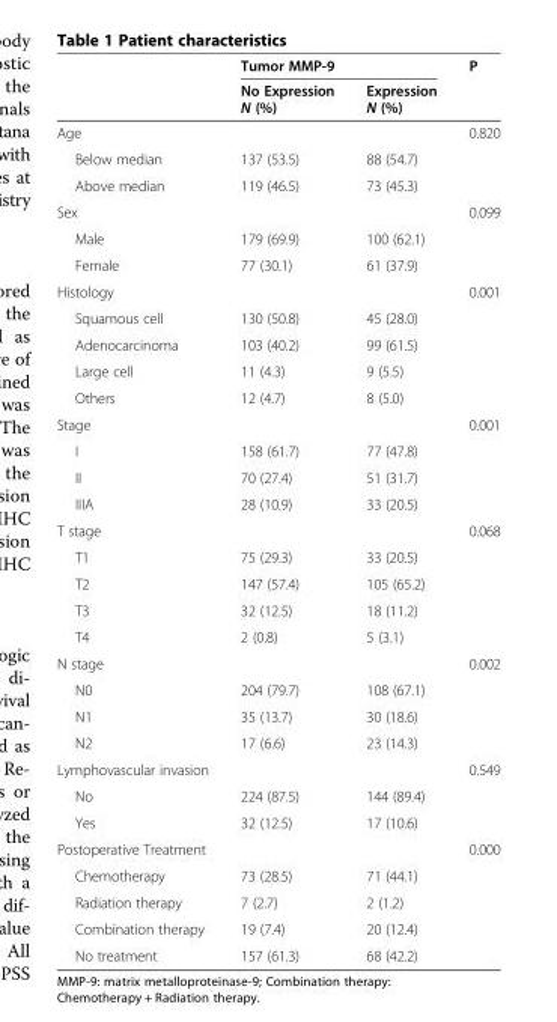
<table><thead><tr><td rowspan="2"></td><td colspan="2">Tumor MMP-9</td><td rowspan="2">P</td></tr><tr><td>No Expression N (%)</td><td>Expression N (%)</td></tr></thead><tbody><tr><td>Age</td><td></td><td></td><td>0.820</td></tr><tr><td>Below median</td><td>137 (53.5)</td><td>88 (54.7)</td><td></td></tr><tr><td>Above median</td><td>119 (46.5)</td><td>73 (45.3)</td><td></td></tr><tr><td>Sex</td><td></td><td></td><td>0.099</td></tr><tr><td>Male</td><td>179 (69.9)</td><td>100 (62.1)</td><td></td></tr><tr><td>Female</td><td>77 (30.1)</td><td>61 (37.9)</td><td></td></tr><tr><td>Histology</td><td></td><td></td><td>0.001</td></tr><tr><td>Squamous cell</td><td>130 (50.8)</td><td>45 (28.0)</td><td></td></tr><tr><td>Adenocarcinoma</td><td>103 (40.2)</td><td>99 (61.5)</td><td></td></tr><tr><td>Large cell</td><td>11 (4.3)</td><td>9 (5.5)</td><td></td></tr><tr><td>Others</td><td>12 (4.7)</td><td>8 (5.0)</td><td></td></tr><tr><td>Stage</td><td></td><td></td><td>0.001</td></tr><tr><td>I</td><td>158 (61.7)</td><td>77 (47.8)</td><td></td></tr><tr><td>II</td><td>70 (27.4)</td><td>51 (31.7)</td><td></td></tr><tr><td>IIIA</td><td>28 (10.9)</td><td>33 (20.5)</td><td></td></tr><tr><td>T stage</td><td></td><td></td><td>0.068</td></tr><tr><td>T1</td><td>75 (29.3)</td><td>33 (20.5)</td><td></td></tr><tr><td>T2</td><td>147 (57.4)</td><td>105 (65.2)</td><td></td></tr><tr><td>T3</td><td>32 (12.5)</td><td>18 (11.2)</td><td></td></tr><tr><td>T4</td><td>2 (0.8)</td><td>5 (3.1)</td><td></td></tr><tr><td>N stage</td><td></td><td></td><td>0.002</td></tr><tr><td>N0</td><td>204 (79.7)</td><td>108 (67.1)</td><td></td></tr><tr><td>N1</td><td>35 (13.7)</td><td>30 (18.6)</td><td></td></tr><tr><td>N2</td><td>17 (6.6)</td><td>23 (14.3)</td><td></td></tr><tr><td>Lymphovascular invasion</td><td></td><td></td><td>0.549</td></tr><tr><td>No</td><td>224 (87.5)</td><td>144 (89.4)</td><td></td></tr><tr><td>Yes</td><td>32 (12.5)</td><td>17 (10.6)</td><td></td></tr><tr><td>Postoperative Treatment</td><td></td><td></td><td>0.000</td></tr><tr><td>Chemotherapy</td><td>73 (28.5)</td><td>71 (44.1)</td><td></td></tr><tr><td>Radiation therapy</td><td>7 (2.7)</td><td>2 (1.2)</td><td></td></tr><tr><td>Combination therapy</td><td>19 (7.4)</td><td>20 (12.4)</td><td></td></tr><tr><td>No treatment</td><td>157 (61.3)</td><td>68 (42.2)</td><td></td></tr></tbody></table>